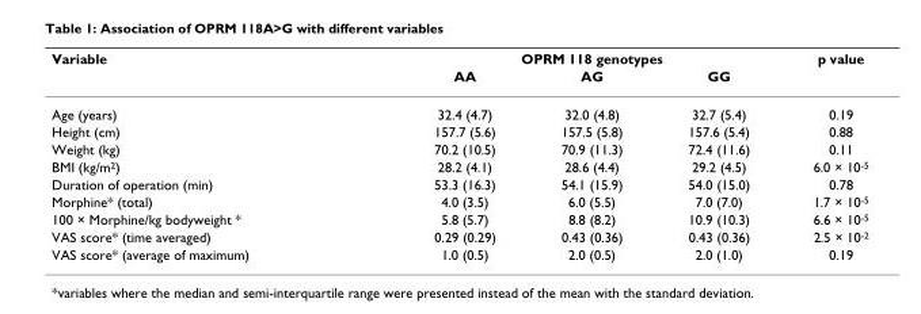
<table><thead><tr><td rowspan="2">Variable</td><td colspan="3">OPRM 118 genotypes</td><td rowspan="2">p value</td></tr><tr><td>AA</td><td>AG</td><td>GG</td></tr></thead><tbody><tr><td>Age (years)</td><td>32.4 (4.7)</td><td>32.0 (4.8)</td><td>32.7 (5.4)</td><td>0.19</td></tr><tr><td>Height (cm)</td><td>157.7 (5.6)</td><td>157.5 (5.8)</td><td>157.6 (5.4)</td><td>0.88</td></tr><tr><td>Weight (kg)</td><td>70.2 (10.5)</td><td>70.9 (11.3)</td><td>72.4 (11.6)</td><td>0.11</td></tr><tr><td>BMI (kg/m<sup>2</sup>)</td><td>28.2 (4.1)</td><td>28.6 (4.4)</td><td>29.2 (4.5)</td><td>6.0 × 10<sup>-5</sup></td></tr><tr><td>Duration of operation (min)</td><td>53.3 (16.3)</td><td>54.1 (15.9)</td><td>54.0 (15.0)</td><td>0.78</td></tr><tr><td>Morphine* (total)</td><td>4.0 (3.5)</td><td>6.0 (5.5)</td><td>7.0 (7.0)</td><td>1.7 × 10<sup>-5</sup></td></tr><tr><td>100 × Morphine/kg bodyweight *</td><td>5.8 (5.7)</td><td>8.8 (8.2)</td><td>10.9 (10.3)</td><td>6.6 × 10<sup>-5</sup></td></tr><tr><td>VAS score* (time averaged)</td><td>0.29 (0.29)</td><td>0.43 (0.36)</td><td>0.43 (0.36)</td><td>2.5 × 10<sup>-2</sup></td></tr><tr><td>VAS score* (average of maximum)</td><td>1.0 (0.5)</td><td>2.0 (0.5)</td><td>2.0 (1.0)</td><td>0.19</td></tr></tbody></table>